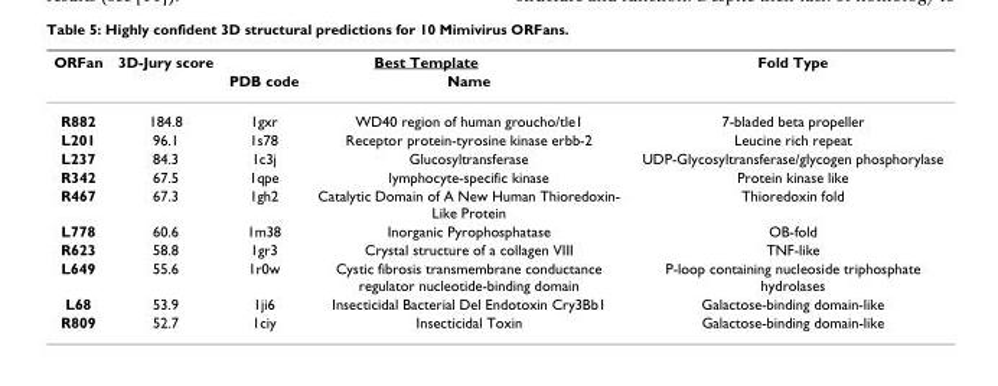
<table><thead><tr><td rowspan="2">ORFan</td><td rowspan="2">3D-Jury score</td><td colspan="2">Best Template</td><td rowspan="2">Fold Type</td></tr><tr><td>PDB code</td><td>Name</td></tr></thead><tbody><tr><td>R882</td><td>184.8</td><td>1gxr</td><td>WD40 region of human groucho/tle1</td><td>7-bladed beta propeller</td></tr><tr><td>L201</td><td>96.1</td><td>1s78</td><td>Receptor protein-tyrosine kinase erbb-2</td><td>Leucine rich repeat</td></tr><tr><td>L237</td><td>84.3</td><td>1c3j</td><td>Glucosyltransferase</td><td>UDP-Glycosyltransferase/glycogen phosphorylase</td></tr><tr><td>R342</td><td>67.5</td><td>1qpe</td><td>lymphocyte-specific kinase</td><td>Protein kinase like</td></tr><tr><td>R467</td><td>67.3</td><td>1gh2</td><td>Catalytic Domain of A New Human Thioredoxin- Like Protein</td><td>Thioredoxin fold</td></tr><tr><td>L778</td><td>60.6</td><td>1m38</td><td>Inorganic Pyrophosphatase</td><td>OB-fold</td></tr><tr><td>R623</td><td>58.8</td><td>1gr3</td><td>Crystal structure of a collagen VIII</td><td>TNF-like</td></tr><tr><td>L649</td><td>55.6</td><td>1r0w</td><td>Cystic fibrosis transmembrane conductance regulator nucleotide-binding domain</td><td>P-loop containing nucleoside triphosphate hydrolases</td></tr><tr><td>L68</td><td>53.9</td><td>1ji6</td><td>Insecticidal Bacterial Del Endotoxin Cry3Bb1</td><td>Galactose-binding domain-like</td></tr><tr><td>R809</td><td>52.7</td><td>1ciy</td><td>Insecticidal Toxin</td><td>Galactose-binding domain-like</td></tr></tbody></table>